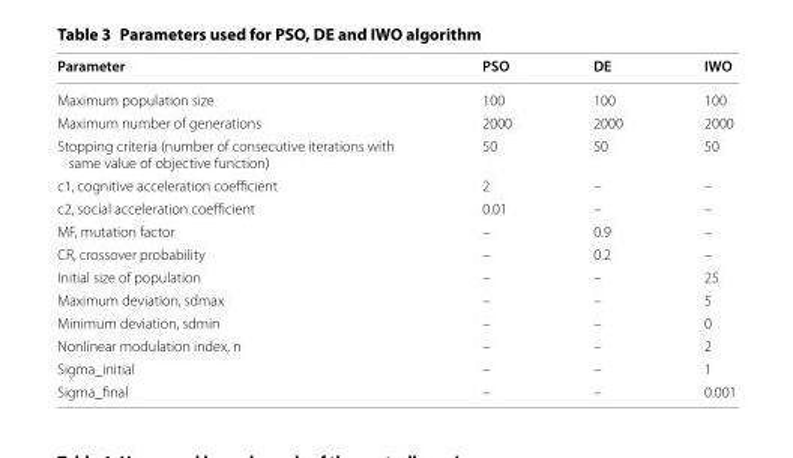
<table><thead><tr><td>Parameter</td><td>PSO</td><td>DE</td><td>IWO</td></tr></thead><tbody><tr><td>Maximum population size</td><td>100</td><td>100</td><td>100</td></tr><tr><td>Maximum number of generations</td><td>2000</td><td>2000</td><td>2000</td></tr><tr><td>Stopping criteria (number of consecutive iterations with same value of objective function)</td><td>50</td><td>50</td><td>50</td></tr><tr><td>c1, cognitive acceleration coefficient</td><td>2</td><td>–</td><td>–</td></tr><tr><td>c2, social acceleration coefficient</td><td>0.01</td><td>–</td><td>–</td></tr><tr><td>MF, mutation factor</td><td>–</td><td>0.9</td><td>–</td></tr><tr><td>CR, crossover probability</td><td>–</td><td>0.2</td><td>–</td></tr><tr><td>Initial size of population</td><td>–</td><td>–</td><td>25</td></tr><tr><td>Maximum deviation, sdmax</td><td>–</td><td>–</td><td>5</td></tr><tr><td>Minimum deviation, sdmin</td><td>–</td><td>–</td><td>0</td></tr><tr><td>Nonlinear modulation index, n</td><td>–</td><td>–</td><td>2</td></tr><tr><td>Sigma_initial</td><td>–</td><td>–</td><td>1</td></tr><tr><td>Sigma_final</td><td>–</td><td>–</td><td>0.001</td></tr></tbody></table>